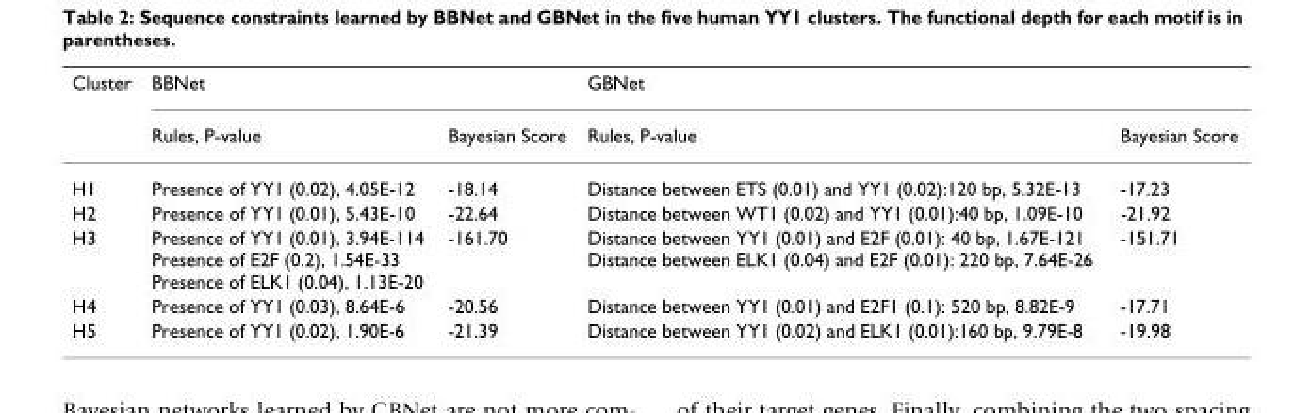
<table><thead><tr><td rowspan="2">Cluster</td><td colspan="2">BBNet</td><td colspan="2">GBNet</td></tr><tr><td>Rules, P-value</td><td>Bayesian Score</td><td>Rules, P-value</td><td>Bayesian Score</td></tr></thead><tbody><tr><td>H1</td><td>Presence of YY1 (0.02), 4.05E-12</td><td>-18.14</td><td>Distance between ETS (0.01) and YY1 (0.02):120 bp, 5.32E-13</td><td>-17.23</td></tr><tr><td>H2</td><td>Presence of YY1 (0.01), 5.43E-10</td><td>-22.64</td><td>Distance between WT1 (0.02) and YY1 (0.01):40 bp, 1.09E-10</td><td>-21.92</td></tr><tr><td>H3</td><td>Presence of YY1 (0.01), 3.94E-114 Presence of E2F (0.2), 1.54E-33 Presence of ELK1 (0.04), 1.13E-20</td><td>-161.70</td><td>Distance between YY1 (0.01) and E2F (0.01): 40 bp, 1.67E-121 Distance between ELK1 (0.04) and E2F (0.01): 220 bp, 7.64E-26</td><td>-151.71</td></tr><tr><td>H4</td><td>Presence of YY1 (0.03), 8.64E-6</td><td>-20.56</td><td>Distance between YY1 (0.01) and E2F1 (0.1): 520 bp, 8.82E-9</td><td>-17.71</td></tr><tr><td>H5</td><td>Presence of YY1 (0.02), 1.90E-6</td><td>-21.39</td><td>Distance between YY1 (0.02) and ELK1 (0.01):160 bp, 9.79E-8</td><td>-19.98</td></tr></tbody></table>